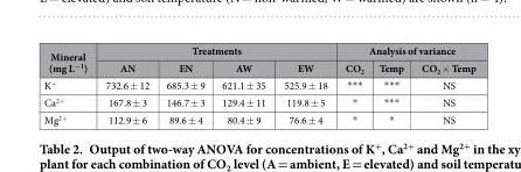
<table><thead><tr><td rowspan="2">Mineral (mg L<sup>−1</sup>)</td><td colspan="4">Treatments</td><td colspan="3">Analysis of variance</td></tr><tr><td>AN</td><td>EN</td><td>AW</td><td>EW</td><td>CO<sub>2</sub></td><td>Temp</td><td>CO<sub>2</sub> × Temp</td></tr></thead><tbody><tr><td>K<sup>+</sup></td><td>732.6 ± 12</td><td>685.3 ± 9</td><td>621.1 ± 35</td><td>525.9 ± 18</td><td>***</td><td>***</td><td>NS</td></tr><tr><td>Ca<sup>2+</sup></td><td>167.8 ± 3</td><td>146.7 ± 3</td><td>129.4 ± 11</td><td>119.8 ± 5</td><td>*</td><td>***</td><td>NS</td></tr><tr><td>Mg<sup>2+</sup></td><td>112.9 ± 6</td><td>89.6 ± 4</td><td>80.4 ± 9</td><td>76.6 ± 4</td><td>*</td><td>*</td><td>NS</td></tr></tbody></table>